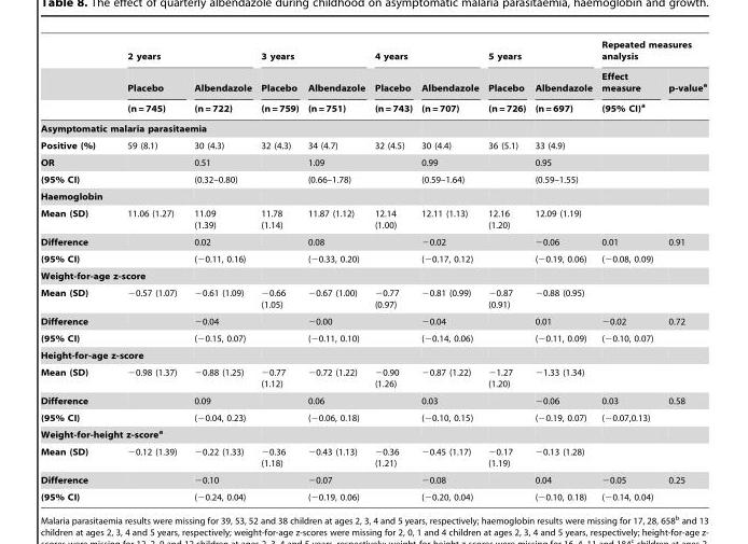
<table><thead><tr><td rowspan="3"></td><td colspan="2">2 years</td><td colspan="2">3 years</td><td colspan="2">4 years</td><td colspan="2">5 years</td><td colspan="2">Repeated measures analysis</td></tr><tr><td rowspan="2">Placebo (n = 745)</td><td rowspan="2">Albendazole (n = 722)</td><td rowspan="2">Placebo (n = 759)</td><td rowspan="2">Albendazole (n = 751)</td><td rowspan="2">Placebo (n = 743)</td><td rowspan="2">Albendazole (n = 707)</td><td rowspan="2">Placebo (n = 726)</td><td rowspan="2">Albendazole (n = 697)</td><td rowspan="2">Effect measure (95% CI)<sup>a</sup></td><td rowspan="2">p-value<sup>a</sup></td></tr><tr></tr></thead><tbody><tr><td colspan="11">Asymptomatic malaria parasitaemia</td></tr><tr><td>Positive (%)</td><td>59 (8.1)</td><td>30 (4.3)</td><td>32 (4.3)</td><td>34 (4.7)</td><td>32 (4.5)</td><td>30 (4.4)</td><td>36 (5.1)</td><td>33 (4.9)</td><td></td><td></td></tr><tr><td>OR</td><td></td><td>0.51</td><td></td><td>1.09</td><td></td><td>0.99</td><td></td><td>0.95</td><td></td><td></td></tr><tr><td>(95% CI)</td><td></td><td>(0.32–0.80)</td><td></td><td>(0.66–1.78)</td><td></td><td>(0.59–1.64)</td><td></td><td>(0.59–1.55)</td><td></td><td></td></tr><tr><td colspan="11">Haemoglobin</td></tr><tr><td>Mean (SD)</td><td>11.06 (1.27)</td><td>11.09 (1.39)</td><td>11.78 (1.14)</td><td>11.87 (1.12)</td><td>12.14 (1.00)</td><td>12.11 (1.13)</td><td>12.16 (1.20)</td><td>12.09 (1.19)</td><td></td><td></td></tr><tr><td>Difference</td><td></td><td>0.02</td><td></td><td>0.08</td><td></td><td>−0.02</td><td></td><td>−0.06</td><td>0.01</td><td>0.91</td></tr><tr><td>(95% CI)</td><td></td><td>(−0.11, 0.16)</td><td></td><td>(−0.33, 0.20)</td><td></td><td>(−0.17, 0.12)</td><td></td><td>(−0.19, 0.06)</td><td>(−0.08, 0.09)</td><td></td></tr><tr><td colspan="11">Weight-for-age z-score</td></tr><tr><td>Mean (SD)</td><td>−0.57 (1.07)</td><td>−0.61 (1.09)</td><td>−0.66 (1.05)</td><td>−0.67 (1.00)</td><td>−0.77 (0.97)</td><td>−0.81 (0.99)</td><td>−0.87 (0.91)</td><td>−0.88 (0.95)</td><td></td><td></td></tr><tr><td>Difference</td><td></td><td>−0.04</td><td></td><td>−0.00</td><td></td><td>−0.04</td><td></td><td>0.01</td><td>−0.02</td><td>0.72</td></tr><tr><td>(95% CI)</td><td></td><td>(−0.15, 0.07)</td><td></td><td>(−0.11, 0.10)</td><td></td><td>(−0.14, 0.06)</td><td></td><td>(−0.11, 0.09)</td><td>(−0.10, 0.07)</td><td></td></tr><tr><td colspan="11">Height-for-age z-score</td></tr><tr><td>Mean (SD)</td><td>−0.98 (1.37)</td><td>−0.88 (1.25)</td><td>−0.77 (1.12)</td><td>−0.72 (1.22)</td><td>−0.90 (1.26)</td><td>−0.87 (1.22)</td><td>−1.27 (1.20)</td><td>−1.33 (1.34)</td><td></td><td></td></tr><tr><td>Difference</td><td></td><td>0.09</td><td></td><td>0.06</td><td></td><td>0.03</td><td></td><td>−0.06</td><td>0.03</td><td>0.58</td></tr><tr><td>(95% CI)</td><td></td><td>(−0.04, 0.23)</td><td></td><td>(−0.06, 0.18)</td><td></td><td>(−0.10, 0.15)</td><td></td><td>(−0.19, 0.07)</td><td>(−0.07,0.13)</td><td></td></tr><tr><td colspan="11">Weight-for-height z-scorea</td></tr><tr><td>Mean (SD)</td><td>−0.12 (1.39)</td><td>−0.22 (1.33)</td><td>−0.36 (1.18)</td><td>−0.43 (1.13)</td><td>−0.36 (1.21)</td><td>−0.45 (1.17)</td><td>−0.17 (1.19)</td><td>−0.13 (1.28)</td><td></td><td></td></tr><tr><td>Difference</td><td></td><td>−0.10</td><td></td><td>−0.07</td><td></td><td>−0.08</td><td></td><td>0.04</td><td>−0.05</td><td>0.25</td></tr><tr><td>(95% CI)</td><td></td><td>(−0.24, 0.04)</td><td></td><td>(−0.19, 0.06)</td><td></td><td>(−0.20, 0.04)</td><td></td><td>(−0.10, 0.18)</td><td>(−0.14, 0.04)</td><td></td></tr></tbody></table>